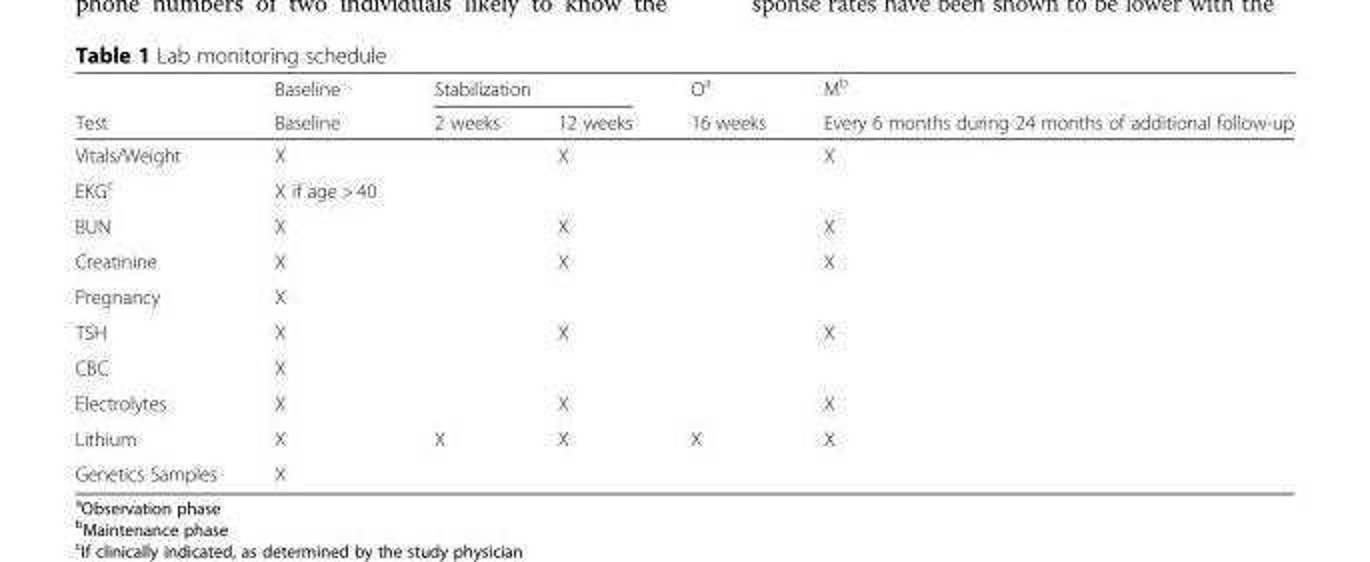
<table><thead><tr><td rowspan="2">Test</td><td rowspan="2">Baseline Baseline</td><td colspan="2">Stabilization</td><td rowspan="2">O<sup>a</sup> 16 weeks</td><td rowspan="2">M<sup>b</sup> Every 6 months during 24 months of additional follow-up</td></tr><tr><td>2 weeks</td><td>12 weeks</td></tr></thead><tbody><tr><td>Vitals/Weight</td><td>X</td><td></td><td>X</td><td></td><td>X</td></tr><tr><td>EKG<sup>c</sup></td><td>X if age &gt; 40</td><td></td><td></td><td></td><td></td></tr><tr><td>BUN</td><td>X</td><td></td><td>X</td><td></td><td>X</td></tr><tr><td>Creatinine</td><td>X</td><td></td><td>X</td><td></td><td>X</td></tr><tr><td>Pregnancy</td><td>X</td><td></td><td></td><td></td><td></td></tr><tr><td>TSH</td><td>X</td><td></td><td>X</td><td></td><td>X</td></tr><tr><td>CBC</td><td>X</td><td></td><td></td><td></td><td></td></tr><tr><td>Electrolytes</td><td>X</td><td></td><td>X</td><td></td><td>X</td></tr><tr><td>Lithium</td><td>X</td><td>X</td><td>X</td><td>X</td><td>X</td></tr><tr><td>Genetics Samples</td><td>X</td><td></td><td></td><td></td><td></td></tr></tbody></table>